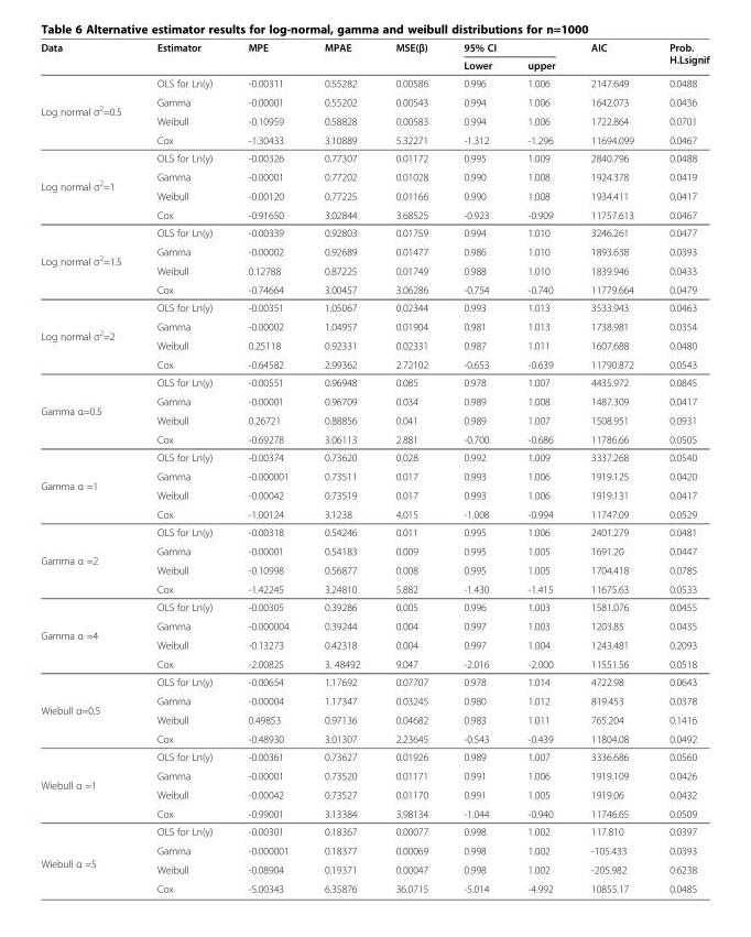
<table><thead><tr><td rowspan="2">Data</td><td rowspan="2">Estimator</td><td rowspan="2">MPE</td><td rowspan="2">MPAE</td><td rowspan="2">MSE(β)</td><td colspan="2">95% CI</td><td rowspan="2">AIC</td><td rowspan="2">Prob. H.Lsignif</td></tr><tr><td>Lower</td><td>upper</td></tr></thead><tbody><tr><td rowspan="4">Log normal σ<sup>2</sup>=0.5</td><td>OLS for Ln(y)</td><td>-0.00311</td><td>0.55282</td><td>0.00586</td><td>0.996</td><td>1.006</td><td>2147.649</td><td>0.0488</td></tr><tr><td>Gamma</td><td>-0.00001</td><td>0.55202</td><td>0.00543</td><td>0.994</td><td>1.006</td><td>1642.073</td><td>0.0436</td></tr><tr><td>Weibull</td><td>-0.10959</td><td>0.58828</td><td>0.00583</td><td>0.994</td><td>1.006</td><td>1722.864</td><td>0.0701</td></tr><tr><td>Cox</td><td>-1.30433</td><td>3.10889</td><td>5.32271</td><td>-1.312</td><td>-1.296</td><td>11694.099</td><td>0.0467</td></tr><tr><td rowspan="4">Log normal σ<sup>2</sup>=1</td><td>OLS for Ln(y)</td><td>-0.00326</td><td>0.77307</td><td>0.01172</td><td>0.995</td><td>1.009</td><td>2840.796</td><td>0.0488</td></tr><tr><td>Gamma</td><td>-0.00001</td><td>0.77202</td><td>0.01028</td><td>0.990</td><td>1.008</td><td>1924.378</td><td>0.0419</td></tr><tr><td>Weibull</td><td>-0.00120</td><td>0.77225</td><td>0.01166</td><td>0.990</td><td>1.008</td><td>1934.411</td><td>0.0417</td></tr><tr><td>Cox</td><td>-0.91650</td><td>3.02844</td><td>3.68525</td><td>-0.923</td><td>-0.909</td><td>11757.613</td><td>0.0467</td></tr><tr><td rowspan="4">Log normal σ<sup>2</sup>=1.5</td><td>OLS for Ln(y)</td><td>-0.00339</td><td>0.92803</td><td>0.01759</td><td>0.994</td><td>1.010</td><td>3246.261</td><td>0.0477</td></tr><tr><td>Gamma</td><td>-0.00002</td><td>0.92689</td><td>0.01477</td><td>0.986</td><td>1.010</td><td>1893.638</td><td>0.0393</td></tr><tr><td>Weibull</td><td>0.12788</td><td>0.87225</td><td>0.01749</td><td>0.988</td><td>1.010</td><td>1839.946</td><td>0.0433</td></tr><tr><td>Cox</td><td>-0.74664</td><td>3.00457</td><td>3.06286</td><td>-0.754</td><td>-0.740</td><td>11779.664</td><td>0.0479</td></tr><tr><td rowspan="4">Log normal σ<sup>2</sup>=2</td><td>OLS for Ln(y)</td><td>-0.00351</td><td>1.05067</td><td>0.02344</td><td>0.993</td><td>1.013</td><td>3533.943</td><td>0.0463</td></tr><tr><td>Gamma</td><td>-0.00002</td><td>1.04957</td><td>0.01904</td><td>0.981</td><td>1.013</td><td>1738.981</td><td>0.0354</td></tr><tr><td>Weibull</td><td>0.25118</td><td>0.92331</td><td>0.02331</td><td>0.987</td><td>1.011</td><td>1607.688</td><td>0.0480</td></tr><tr><td>Cox</td><td>-0.64582</td><td>2.99362</td><td>2.72102</td><td>-0.653</td><td>-0.639</td><td>11790.872</td><td>0.0543</td></tr><tr><td rowspan="4">Gamma α=0.5</td><td>OLS for Ln(y)</td><td>-0.00551</td><td>0.96948</td><td>0.085</td><td>0.978</td><td>1.007</td><td>4435.972</td><td>0.0845</td></tr><tr><td>Gamma</td><td>-0.00001</td><td>0.96709</td><td>0.034</td><td>0.989</td><td>1.008</td><td>1487.309</td><td>0.0417</td></tr><tr><td>Weibull</td><td>0.26721</td><td>0.88856</td><td>0.041</td><td>0.989</td><td>1.007</td><td>1508.951</td><td>0.0931</td></tr><tr><td>Cox</td><td>-0.69278</td><td>3.06113</td><td>2.881</td><td>-0.700</td><td>-0.686</td><td>11786.66</td><td>0.0505</td></tr><tr><td rowspan="4">Gamma α =1</td><td>OLS for Ln(y)</td><td>-0.00374</td><td>0.73620</td><td>0.028</td><td>0.992</td><td>1.009</td><td>3337.268</td><td>0.0540</td></tr><tr><td>Gamma</td><td>-0.000001</td><td>0.73511</td><td>0.017</td><td>0.993</td><td>1.006</td><td>1919.125</td><td>0.0420</td></tr><tr><td>Weibull</td><td>-0.00042</td><td>0.73519</td><td>0.017</td><td>0.993</td><td>1.006</td><td>1919.131</td><td>0.0417</td></tr><tr><td>Cox</td><td>-1.00124</td><td>3.1238</td><td>4.015</td><td>-1.008</td><td>-0.994</td><td>11747.09</td><td>0.0529</td></tr><tr><td rowspan="4">Gamma α =2</td><td>OLS for Ln(y)</td><td>-0.00318</td><td>0.54246</td><td>0.011</td><td>0.995</td><td>1.006</td><td>2401.279</td><td>0.0481</td></tr><tr><td>Gamma</td><td>-0.00001</td><td>0.54183</td><td>0.009</td><td>0.995</td><td>1.005</td><td>1691.20</td><td>0.0447</td></tr><tr><td>Weibull</td><td>-0.10998</td><td>0.56877</td><td>0.008</td><td>0.995</td><td>1.005</td><td>1704.418</td><td>0.0785</td></tr><tr><td>Cox</td><td>-1.42245</td><td>3.24810</td><td>5.882</td><td>-1.430</td><td>-1.415</td><td>11675.63</td><td>0.0533</td></tr><tr><td rowspan="4">Gamma α =4</td><td>OLS for Ln(y)</td><td>-0.00305</td><td>0.39286</td><td>0.005</td><td>0.996</td><td>1.003</td><td>1581.076</td><td>0.0455</td></tr><tr><td>Gamma</td><td>-0.000004</td><td>0.39244</td><td>0.004</td><td>0.997</td><td>1.003</td><td>1203.85</td><td>0.0435</td></tr><tr><td>Weibull</td><td>-0.13273</td><td>0.42318</td><td>0.004</td><td>0.997</td><td>1.004</td><td>1243.481</td><td>0.2093</td></tr><tr><td>Cox</td><td>-2.00825</td><td>3. 48492</td><td>9.047</td><td>-2.016</td><td>-2.000</td><td>11551.56</td><td>0.0518</td></tr><tr><td rowspan="4">Wiebull α=0.5</td><td>OLS for Ln(y)</td><td>-0.00654</td><td>1.17692</td><td>0.07707</td><td>0.978</td><td>1.014</td><td>4722.98</td><td>0.0643</td></tr><tr><td>Gamma</td><td>-0.00004</td><td>1.17347</td><td>0.03245</td><td>0.980</td><td>1.012</td><td>819.453</td><td>0.0378</td></tr><tr><td>Weibull</td><td>0.49853</td><td>0.97136</td><td>0.04682</td><td>0.983</td><td>1.011</td><td>765.204</td><td>0.1416</td></tr><tr><td>Cox</td><td>-0.48930</td><td>3.01307</td><td>2.23645</td><td>-0.543</td><td>-0.439</td><td>11804.08</td><td>0.0492</td></tr><tr><td rowspan="4">Wiebull α =1</td><td>OLS for Ln(y)</td><td>-0.00361</td><td>0.73627</td><td>0.01926</td><td>0.989</td><td>1.007</td><td>3336.686</td><td>0.0560</td></tr><tr><td>Gamma</td><td>-0.00001</td><td>0.73520</td><td>0.01171</td><td>0.991</td><td>1.006</td><td>1919.109</td><td>0.0426</td></tr><tr><td>Weibull</td><td>-0.00042</td><td>0.73527</td><td>0.01170</td><td>0.991</td><td>1.005</td><td>1919.06</td><td>0.0432</td></tr><tr><td>Cox</td><td>-0.99001</td><td>3.13384</td><td>3.98134</td><td>-1.044</td><td>-0.940</td><td>11746.65</td><td>0.0509</td></tr><tr><td rowspan="4">Wiebull α =5</td><td>OLS for Ln(y)</td><td>-0.00301</td><td>0.18367</td><td>0.00077</td><td>0.998</td><td>1.002</td><td>117.810</td><td>0.0397</td></tr><tr><td>Gamma</td><td>-0.000001</td><td>0.18377</td><td>0.00069</td><td>0.998</td><td>1.002</td><td>-105.433</td><td>0.0393</td></tr><tr><td>Weibull</td><td>-0.08904</td><td>0.19371</td><td>0.00047</td><td>0.998</td><td>1.002</td><td>-205.982</td><td>0.6238</td></tr><tr><td>Cox</td><td>-5.00343</td><td>6.35876</td><td>36.0715</td><td>-5.014</td><td>-4.992</td><td>10855.17</td><td>0.0485</td></tr></tbody></table>